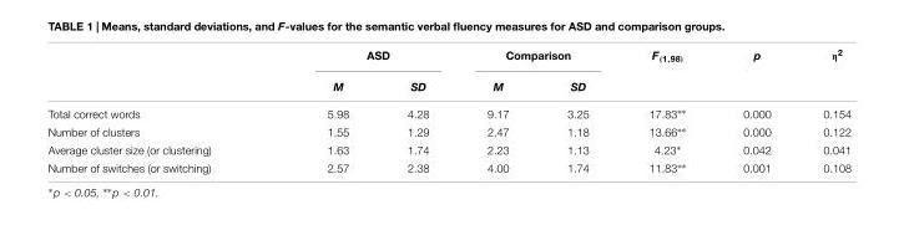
<table><thead><tr><td rowspan="2"></td><td colspan="2">ASD</td><td colspan="2">Comparison</td><td rowspan="2">F<sub>(1,98)</sub></td><td rowspan="2">p</td><td rowspan="2">η<sup>2</sup></td></tr><tr><td>M</td><td>SD</td><td>M</td><td>SD</td></tr></thead><tbody><tr><td>Total correct words</td><td>5.98</td><td>4.28</td><td>9.17</td><td>3.25</td><td>17.83∗∗</td><td>0.000</td><td>0.154</td></tr><tr><td>Number of clusters</td><td>1.55</td><td>1.29</td><td>2.47</td><td>1.18</td><td>13.66∗∗</td><td>0.000</td><td>0.122</td></tr><tr><td>Average cluster size (or clustering)</td><td>1.63</td><td>1.74</td><td>2.23</td><td>1.13</td><td>4.23∗</td><td>0.042</td><td>0.041</td></tr><tr><td>Number of switches (or switching)</td><td>2.57</td><td>2.38</td><td>4.00</td><td>1.74</td><td>11.83∗∗</td><td>0.001</td><td>0.108</td></tr></tbody></table>